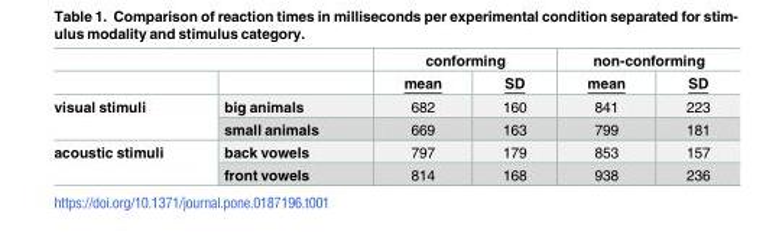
<table><thead><tr><td rowspan="2"></td><td rowspan="2"></td><td colspan="2">conforming</td><td colspan="2">non-conforming</td></tr><tr><td>mean</td><td>SD</td><td>mean</td><td>SD</td></tr></thead><tbody><tr><td rowspan="2">visual stimuli</td><td>big animals</td><td>682</td><td>160</td><td>841</td><td>223</td></tr><tr><td>small animals</td><td>669</td><td>163</td><td>799</td><td>181</td></tr><tr><td rowspan="2">acoustic stimuli</td><td>back vowels</td><td>797</td><td>179</td><td>853</td><td>157</td></tr><tr><td>front vowels</td><td>814</td><td>168</td><td>938</td><td>236</td></tr></tbody></table>